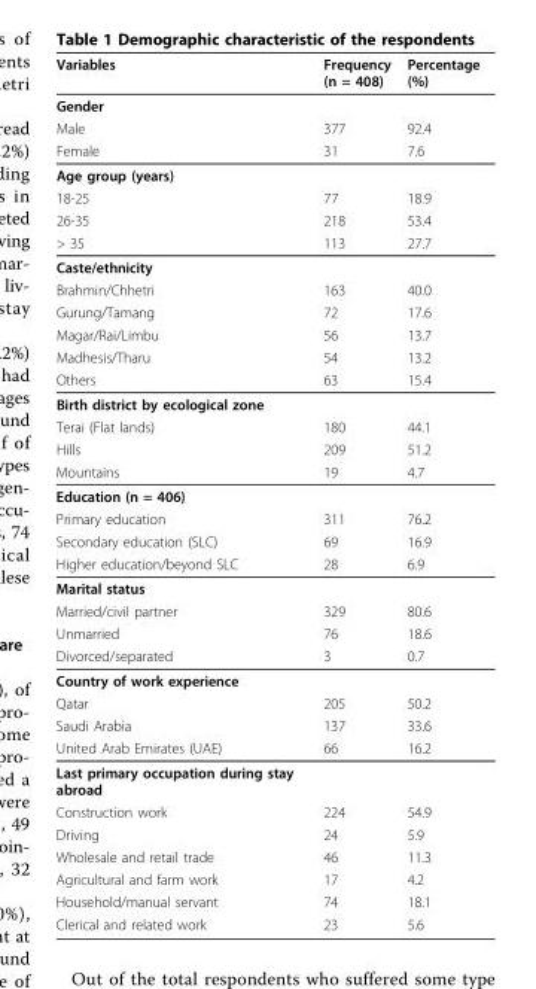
<table><thead><tr><td>Variables</td><td>Frequency (n = 408)</td><td>Percentage (%)</td></tr></thead><tbody><tr><td colspan="3">Gender</td></tr><tr><td>Male</td><td>377</td><td>92.4</td></tr><tr><td>Female</td><td>31</td><td>7.6</td></tr><tr><td colspan="3">Age group (years)</td></tr><tr><td>18-25</td><td>77</td><td>18.9</td></tr><tr><td>26-35</td><td>218</td><td>53.4</td></tr><tr><td>&gt; 35</td><td>113</td><td>27.7</td></tr><tr><td colspan="3">Caste/ethnicity</td></tr><tr><td>Brahmin/Chhetri</td><td>163</td><td>40.0</td></tr><tr><td>Gurung/Tamang</td><td>72</td><td>17.6</td></tr><tr><td>Magar/Rai/Limbu</td><td>56</td><td>13.7</td></tr><tr><td>Madhesis/Tharu</td><td>54</td><td>13.2</td></tr><tr><td>Others</td><td>63</td><td>15.4</td></tr><tr><td colspan="3">Birth district by ecological zone</td></tr><tr><td>Terai (Flat lands)</td><td>180</td><td>44.1</td></tr><tr><td>Hills</td><td>209</td><td>51.2</td></tr><tr><td>Mountains</td><td>19</td><td>4.7</td></tr><tr><td colspan="3">Education (n = 406)</td></tr><tr><td>Primary education</td><td>311</td><td>76.2</td></tr><tr><td>Secondary education (SLC)</td><td>69</td><td>16.9</td></tr><tr><td>Higher education/beyond SLC</td><td>28</td><td>6.9</td></tr><tr><td colspan="3">Marital status</td></tr><tr><td>Married/civil partner</td><td>329</td><td>80.6</td></tr><tr><td>Unmarried</td><td>76</td><td>18.6</td></tr><tr><td>Divorced/separated</td><td>3</td><td>0.7</td></tr><tr><td colspan="3">Country of work experience</td></tr><tr><td>Qatar</td><td>205</td><td>50.2</td></tr><tr><td>Saudi Arabia</td><td>137</td><td>33.6</td></tr><tr><td>United Arab Emirates (UAE)</td><td>66</td><td>16.2</td></tr><tr><td colspan="3">Last primary occupation during stay abroad</td></tr><tr><td>Construction work</td><td>224</td><td>54.9</td></tr><tr><td>Driving</td><td>24</td><td>5.9</td></tr><tr><td>Wholesale and retail trade</td><td>46</td><td>11.3</td></tr><tr><td>Agricultural and farm work</td><td>17</td><td>4.2</td></tr><tr><td>Household/manual servant</td><td>74</td><td>18.1</td></tr><tr><td>Clerical and related work</td><td>23</td><td>5.6</td></tr></tbody></table>